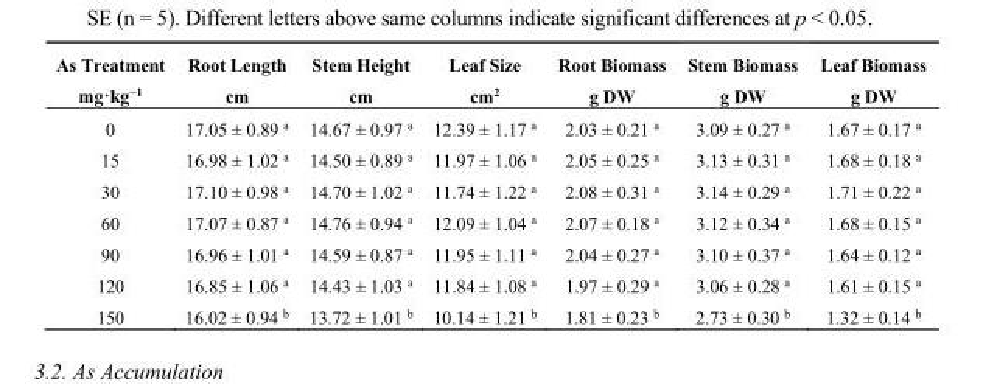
<table><thead><tr><td>As Treatment mg·kg<sup>−1</sup></td><td>Root Length cm</td><td>Stem Height cm</td><td>Leaf Size cm<sup>2</sup></td><td>Root Biomass g DW</td><td>Stem Biomass g DW</td><td>Leaf Biomass g DW</td></tr></thead><tbody><tr><td>0</td><td>17.05 ± 0.89 <sup>a</sup></td><td>14.67 ± 0.97 <sup>a</sup></td><td>12.39 ± 1.17 <sup>a</sup></td><td>2.03 ± 0.21 <sup>a</sup></td><td>3.09 ± 0.27 <sup>a</sup></td><td>1.67 ± 0.17 <sup>a</sup></td></tr><tr><td>15</td><td>16.98 ± 1.02 <sup>a</sup></td><td>14.50 ± 0.89 <sup>a</sup></td><td>11.97 ± 1.06 <sup>a</sup></td><td>2.05 ± 0.25 <sup>a</sup></td><td>3.13 ± 0.31 <sup>a</sup></td><td>1.68 ± 0.18 <sup>a</sup></td></tr><tr><td>30</td><td>17.10 ± 0.98 <sup>a</sup></td><td>14.70 ± 1.02 <sup>a</sup></td><td>11.74 ± 1.22 <sup>a</sup></td><td>2.08 ± 0.31 <sup>a</sup></td><td>3.14 ± 0.29 <sup>a</sup></td><td>1.71 ± 0.22 <sup>a</sup></td></tr><tr><td>60</td><td>17.07 ± 0.87 <sup>a</sup></td><td>14.76 ± 0.94 <sup>a</sup></td><td>12.09 ± 1.04 <sup>a</sup></td><td>2.07 ± 0.18 <sup>a</sup></td><td>3.12 ± 0.34 <sup>a</sup></td><td>1.68 ± 0.15 <sup>a</sup></td></tr><tr><td>90</td><td>16.96 ± 1.01 <sup>a</sup></td><td>14.59 ± 0.87 <sup>a</sup></td><td>11.95 ± 1.11 <sup>a</sup></td><td>2.04 ± 0.27 <sup>a</sup></td><td>3.10 ± 0.37 <sup>a</sup></td><td>1.64 ± 0.12 <sup>a</sup></td></tr><tr><td>120</td><td>16.85 ± 1.06 <sup>a</sup></td><td>14.43 ± 1.03 <sup>a</sup></td><td>11.84 ± 1.08 <sup>a</sup></td><td>1.97 ± 0.29 <sup>a</sup></td><td>3.06 ± 0.28 <sup>a</sup></td><td>1.61 ± 0.15 <sup>a</sup></td></tr><tr><td>150</td><td>16.02 ± 0.94 <sup>b</sup></td><td>13.72 ± 1.01 <sup>b</sup></td><td>10.14 ± 1.21 <sup>b</sup></td><td>1.81 ± 0.23 <sup>b</sup></td><td>2.73 ± 0.30 <sup>b</sup></td><td>1.32 ± 0.14 <sup>b</sup></td></tr></tbody></table>